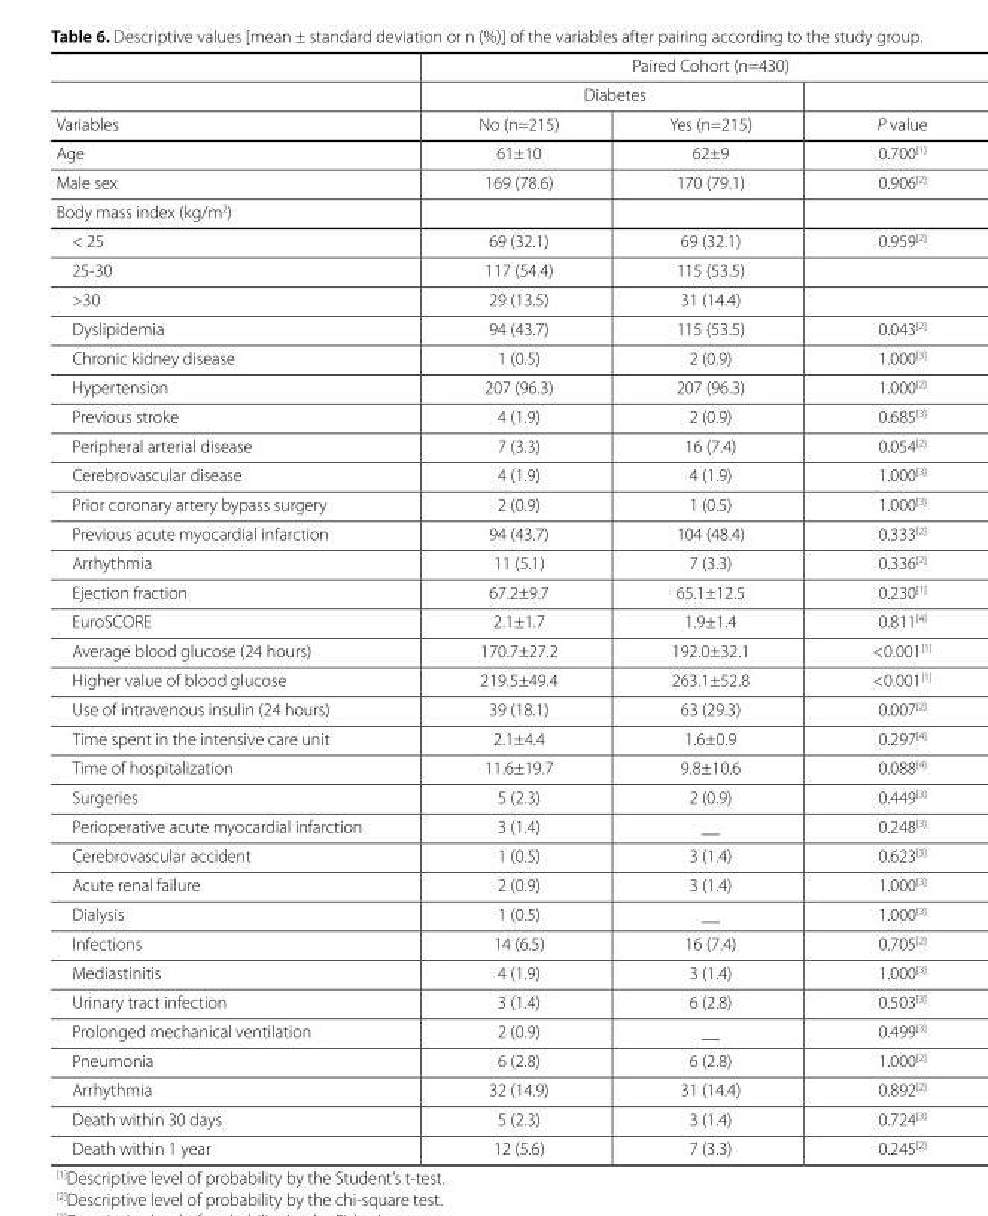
<table><thead><tr><td rowspan="3">Variables</td><td colspan="3">Paired Cohort (n=430)</td></tr><tr><td colspan="2">Diabetes</td><td rowspan="2">P value</td></tr><tr><td>No (n=215)</td><td>Yes (n=215)</td></tr></thead><tbody><tr><td>Age</td><td>61±10</td><td>62±9</td><td>0.700<sup>[1]</sup></td></tr><tr><td>Male sex</td><td>169 (78.6)</td><td>170 (79.1)</td><td>0.906<sup>[2]</sup></td></tr><tr><td colspan="4">Body mass index (kg/m<sup>2</sup>)</td></tr><tr><td>&lt; 25</td><td>69 (32.1)</td><td>69 (32.1)</td><td>0.959<sup>[2]</sup></td></tr><tr><td>25-30</td><td>117 (54.4)</td><td>115 (53.5)</td><td></td></tr><tr><td>&gt;30</td><td>29 (13.5)</td><td>31 (14.4)</td><td></td></tr><tr><td>Dyslipidemia</td><td>94 (43.7)</td><td>115 (53.5)</td><td>0.043<sup>[2]</sup></td></tr><tr><td>Chronic kidney disease</td><td>1 (0.5)</td><td>2 (0.9)</td><td>1.000<sup>[3]</sup></td></tr><tr><td>Hypertension</td><td>207 (96.3)</td><td>207 (96.3)</td><td>1.000<sup>[2]</sup></td></tr><tr><td>Previous stroke</td><td>4 (1.9)</td><td>2 (0.9)</td><td>0.685<sup>[3]</sup></td></tr><tr><td>Peripheral arterial disease</td><td>7 (3.3)</td><td>16 (7.4)</td><td>0.054<sup>[2]</sup></td></tr><tr><td>Cerebrovascular disease</td><td>4 (1.9)</td><td>4 (1.9)</td><td>1.000<sup>[3]</sup></td></tr><tr><td>Prior coronary artery bypass surgery</td><td>2 (0.9)</td><td>1 (0.5)</td><td>1.000<sup>[3]</sup></td></tr><tr><td>Previous acute myocardial infarction</td><td>94 (43.7)</td><td>104 (48.4)</td><td>0.333<sup>[2]</sup></td></tr><tr><td>Arrhythmia</td><td>11 (5.1)</td><td>7 (3.3)</td><td>0.336<sup>[2]</sup></td></tr><tr><td>Ejection fraction</td><td>67.2±9.7</td><td>65.1±12.5</td><td>0.230<sup>[1]</sup></td></tr><tr><td>EuroSCORE</td><td>2.1±1.7</td><td>1.9±1.4</td><td>0.811<sup>[4]</sup></td></tr><tr><td>Average blood glucose (24 hours)</td><td>170.7±27.2</td><td>192.0±32.1</td><td>&lt;0.001<sup>[1]</sup></td></tr><tr><td>Higher value of blood glucose</td><td>219.5±49.4</td><td>263.1±52.8</td><td>&lt;0.001<sup>[1]</sup></td></tr><tr><td>Use of intravenous insulin (24 hours)</td><td>39 (18.1)</td><td>63 (29.3)</td><td>0.007<sup>[2]</sup></td></tr><tr><td>Time spent in the intensive care unit</td><td>2.1±4.4</td><td>1.6±0.9</td><td>0.297<sup>[4]</sup></td></tr><tr><td>Time of hospitalization</td><td>11.6±19.7</td><td>9.8±10.6</td><td>0.088<sup>[4]</sup></td></tr><tr><td>Surgeries</td><td>5 (2.3)</td><td>2 (0.9)</td><td>0.449<sup>[3]</sup></td></tr><tr><td>Perioperative acute myocardial infarction</td><td>3 (1.4)</td><td>__</td><td>0.248<sup>[3]</sup></td></tr><tr><td>Cerebrovascular accident</td><td>1 (0.5)</td><td>3 (1.4)</td><td>0.623<sup>[3]</sup></td></tr><tr><td>Acute renal failure</td><td>2 (0.9)</td><td>3 (1.4)</td><td>1.000<sup>[3]</sup></td></tr><tr><td>Dialysis</td><td>1 (0.5)</td><td>__</td><td>1.000<sup>[3]</sup></td></tr><tr><td>Infections</td><td>14 (6.5)</td><td>16 (7.4)</td><td>0.705<sup>[2]</sup></td></tr><tr><td>Mediastinitis</td><td>4 (1.9)</td><td>3 (1.4)</td><td>1.000<sup>[3]</sup></td></tr><tr><td>Urinary tract infection</td><td>3 (1.4)</td><td>6 (2.8)</td><td>0.503<sup>[3]</sup></td></tr><tr><td>Prolonged mechanical ventilation</td><td>2 (0.9)</td><td>__</td><td>0.499<sup>[3]</sup></td></tr><tr><td>Pneumonia</td><td>6 (2.8)</td><td>6 (2.8)</td><td>1.000<sup>[2]</sup></td></tr><tr><td>Arrhythmia</td><td>32 (14.9)</td><td>31 (14.4)</td><td>0.892<sup>[2]</sup></td></tr><tr><td>Death within 30 days</td><td>5 (2.3)</td><td>3 (1.4)</td><td>0.724<sup>[3]</sup></td></tr><tr><td>Death within 1 year</td><td>12 (5.6)</td><td>7 (3.3)</td><td>0.245<sup>[2]</sup></td></tr></tbody></table>